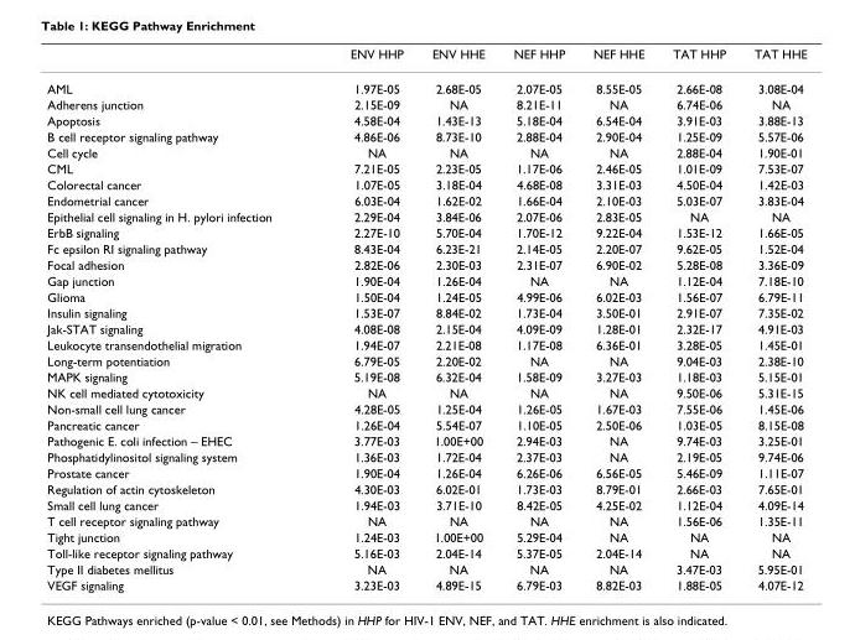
<table><thead><tr><td></td><td>ENV HHP</td><td>ENV HHE</td><td>NEF HHP</td><td>NEF HHE</td><td>TAT HHP</td><td>TAT HHE</td></tr></thead><tbody><tr><td>AML</td><td>1.97E-05</td><td>2.68E-05</td><td>2.07E-05</td><td>8.55E-05</td><td>2.66E-08</td><td>3.08E-04</td></tr><tr><td>Adherens junction</td><td>2.15E-09</td><td>NA</td><td>8.21E-11</td><td>NA</td><td>6.74E-06</td><td>NA</td></tr><tr><td>Apoptosis</td><td>4.58E-04</td><td>1.43E-13</td><td>5.18E-04</td><td>6.54E-04</td><td>3.91E-03</td><td>3.88E-13</td></tr><tr><td>B cell receptor signaling pathway</td><td>4.86E-06</td><td>8.73E-10</td><td>2.88E-04</td><td>2.90E-04</td><td>1.25E-09</td><td>5.57E-06</td></tr><tr><td>Cell cycle</td><td>NA</td><td>NA</td><td>NA</td><td>NA</td><td>2.88E-04</td><td>1.90E-01</td></tr><tr><td>CML</td><td>7.21E-05</td><td>2.23E-05</td><td>1.17E-06</td><td>2.46E-05</td><td>1.01E-09</td><td>7.53E-07</td></tr><tr><td>Colorectal cancer</td><td>1.07E-05</td><td>3.18E-04</td><td>4.68E-08</td><td>3.31E-03</td><td>4.50E-04</td><td>1.42E-03</td></tr><tr><td>Endometrial cancer</td><td>6.03E-04</td><td>1.62E-02</td><td>1.66E-04</td><td>2.10E-03</td><td>5.03E-07</td><td>3.83E-04</td></tr><tr><td>Epithelial cell signaling in H. pylori infection</td><td>2.29E-04</td><td>3.84E-06</td><td>2.07E-06</td><td>2.83E-05</td><td>NA</td><td>NA</td></tr><tr><td>ErbB signaling</td><td>2.27E-10</td><td>5.70E-04</td><td>1.70E-12</td><td>9.22E-04</td><td>1.53E-12</td><td>1.66E-05</td></tr><tr><td>Fc epsilon RI signaling pathway</td><td>8.43E-04</td><td>6.23E-21</td><td>2.14E-05</td><td>2.20E-07</td><td>9.62E-05</td><td>1.52E-04</td></tr><tr><td>Focal adhesion</td><td>2.82E-06</td><td>2.30E-03</td><td>2.31E-07</td><td>6.90E-02</td><td>5.28E-08</td><td>3.36E-09</td></tr><tr><td>Gap junction</td><td>1.90E-04</td><td>1.26E-04</td><td>NA</td><td>NA</td><td>1.12E-04</td><td>7.18E-10</td></tr><tr><td>Glioma</td><td>1.50E-04</td><td>1.24E-05</td><td>4.99E-06</td><td>6.02E-03</td><td>1.56E-07</td><td>6.79E-11</td></tr><tr><td>Insulin signaling</td><td>1.53E-07</td><td>8.84E-02</td><td>1.73E-04</td><td>3.50E-01</td><td>2.91E-07</td><td>7.35E-02</td></tr><tr><td>Jak-STAT signaling</td><td>4.08E-08</td><td>2.15E-04</td><td>4.09E-09</td><td>1.28E-01</td><td>2.32E-17</td><td>4.91E-03</td></tr><tr><td>Leukocyte transendothelial migration</td><td>1.94E-07</td><td>2.21E-08</td><td>1.17E-08</td><td>6.36E-01</td><td>3.28E-05</td><td>1.45E-01</td></tr><tr><td>Long-term potentiation</td><td>6.79E-05</td><td>2.20E-02</td><td>NA</td><td>NA</td><td>9.04E-03</td><td>2.38E-10</td></tr><tr><td>MAPK signaling</td><td>5.19E-08</td><td>6.32E-04</td><td>1.58E-09</td><td>3.27E-03</td><td>1.18E-03</td><td>5.15E-01</td></tr><tr><td>NK cell mediated cytotoxicity</td><td>NA</td><td>NA</td><td>NA</td><td>NA</td><td>9.50E-06</td><td>5.31E-15</td></tr><tr><td>Non-small cell lung cancer</td><td>4.28E-05</td><td>1.25E-04</td><td>1.26E-05</td><td>1.67E-03</td><td>7.55E-06</td><td>1.45E-06</td></tr><tr><td>Pancreatic cancer</td><td>1.26E-04</td><td>5.54E-07</td><td>1.10E-05</td><td>2.50E-06</td><td>1.03E-05</td><td>8.15E-08</td></tr><tr><td>Pathogenic E. coli infection – EHEC</td><td>3.77E-03</td><td>1.00E+00</td><td>2.94E-03</td><td>NA</td><td>9.74E-03</td><td>3.25E-01</td></tr><tr><td>Phosphatidylinositol signaling system</td><td>1.36E-03</td><td>1.72E-04</td><td>2.37E-03</td><td>NA</td><td>2.19E-05</td><td>9.74E-06</td></tr><tr><td>Prostate cancer</td><td>1.90E-04</td><td>1.26E-04</td><td>6.26E-06</td><td>6.56E-05</td><td>5.46E-09</td><td>1.11E-07</td></tr><tr><td>Regulation of actin cytoskeleton</td><td>4.30E-03</td><td>6.02E-01</td><td>1.73E-03</td><td>8.79E-01</td><td>2.66E-03</td><td>7.65E-01</td></tr><tr><td>Small cell lung cancer</td><td>1.94E-03</td><td>3.71E-10</td><td>8.42E-05</td><td>4.25E-02</td><td>1.12E-04</td><td>4.09E-14</td></tr><tr><td>T cell receptor signaling pathway</td><td>NA</td><td>NA</td><td>NA</td><td>NA</td><td>1.56E-06</td><td>1.35E-11</td></tr><tr><td>Tight junction</td><td>1.24E-03</td><td>1.00E+00</td><td>5.29E-04</td><td>NA</td><td>NA</td><td>NA</td></tr><tr><td>Toll-like receptor signaling pathway</td><td>5.16E-03</td><td>2.04E-14</td><td>5.37E-05</td><td>2.04E-14</td><td>NA</td><td>NA</td></tr><tr><td>Type II diabetes mellitus</td><td>NA</td><td>NA</td><td>NA</td><td>NA</td><td>3.47E-03</td><td>5.95E-01</td></tr><tr><td>VEGF signaling</td><td>3.23E-03</td><td>4.89E-15</td><td>6.79E-03</td><td>8.82E-03</td><td>1.88E-05</td><td>4.07E-12</td></tr></tbody></table>